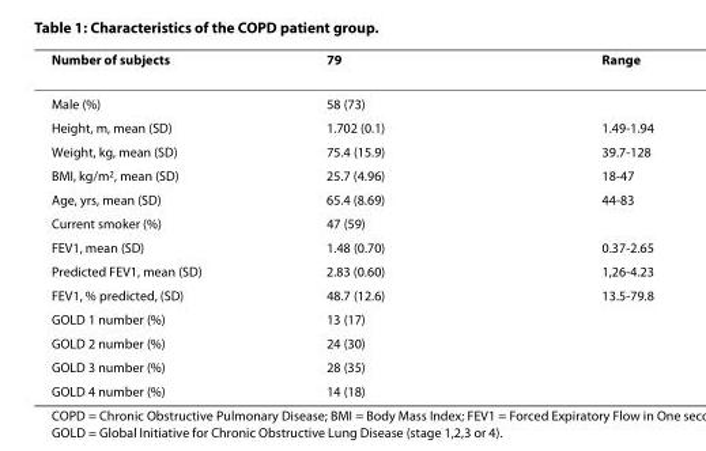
<table><thead><tr><td>Number of subjects</td><td>79</td><td>Range</td></tr></thead><tbody><tr><td>Male (%)</td><td>58 (73)</td><td></td></tr><tr><td>Height, m, mean (SD)</td><td>1.702 (0.1)</td><td>1.49-1.94</td></tr><tr><td>Weight, kg, mean (SD)</td><td>75.4 (15.9)</td><td>39.7-128</td></tr><tr><td>BMI, kg/m<sup>2</sup>, mean (SD)</td><td>25.7 (4.96)</td><td>18-47</td></tr><tr><td>Age, yrs, mean (SD)</td><td>65.4 (8.69)</td><td>44-83</td></tr><tr><td>Current smoker (%)</td><td>47 (59)</td><td></td></tr><tr><td>FEV1, mean (SD)</td><td>1.48 (0.70)</td><td>0.37-2.65</td></tr><tr><td>Predicted FEV1, mean (SD)</td><td>2.83 (0.60)</td><td>1,26-4.23</td></tr><tr><td>FEV1, % predicted, (SD)</td><td>48.7 (12.6)</td><td>13.5-79.8</td></tr><tr><td>GOLD 1 number (%)</td><td>13 (17)</td><td></td></tr><tr><td>GOLD 2 number (%)</td><td>24 (30)</td><td></td></tr><tr><td>GOLD 3 number (%)</td><td>28 (35)</td><td></td></tr><tr><td>GOLD 4 number (%)</td><td>14 (18)</td><td></td></tr></tbody></table>